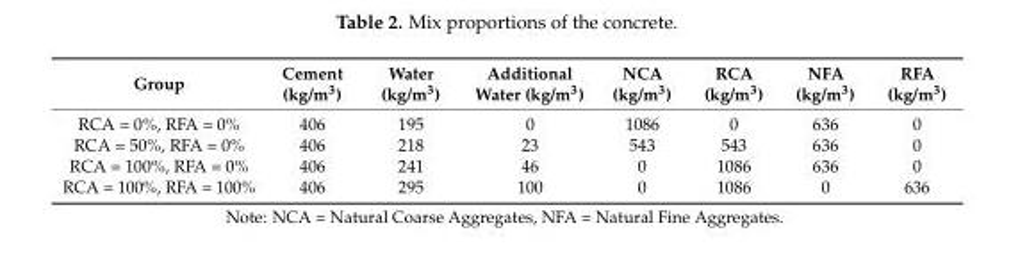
<table><thead><tr><td>Group</td><td>Cement (kg/m<sup>3</sup>)</td><td>Water (kg/m<sup>3</sup>)</td><td>Additional Water (kg/m<sup>3</sup>)</td><td>NCA (kg/m<sup>3</sup>)</td><td>RCA (kg/m<sup>3</sup>)</td><td>NFA (kg/m<sup>3</sup>)</td><td>RFA (kg/m<sup>3</sup>)</td></tr></thead><tbody><tr><td>RCA = 0%, RFA = 0%</td><td>406</td><td>195</td><td>0</td><td>1086</td><td>0</td><td>636</td><td>0</td></tr><tr><td>RCA = 50%, RFA = 0%</td><td>406</td><td>218</td><td>23</td><td>543</td><td>543</td><td>636</td><td>0</td></tr><tr><td>RCA = 100%, RFA = 0%</td><td>406</td><td>241</td><td>46</td><td>0</td><td>1086</td><td>636</td><td>0</td></tr><tr><td>RCA = 100%, RFA = 100%</td><td>406</td><td>295</td><td>100</td><td>0</td><td>1086</td><td>0</td><td>636</td></tr></tbody></table>